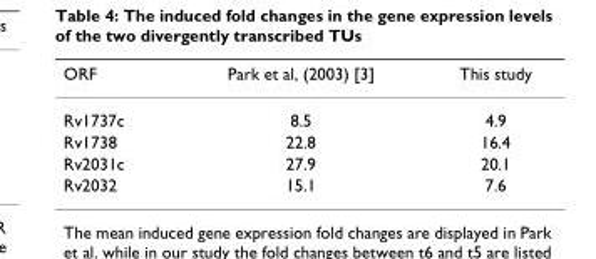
<table><thead><tr><td>ORF</td><td>Park et al, (2003) [3]</td><td>This study</td></tr></thead><tbody><tr><td>Rv1737c</td><td>8.5</td><td>4.9</td></tr><tr><td>Rv1738</td><td>22.8</td><td>16.4</td></tr><tr><td>Rv2031c</td><td>27.9</td><td>20.1</td></tr><tr><td>Rv2032</td><td>15.1</td><td>7.6</td></tr></tbody></table>